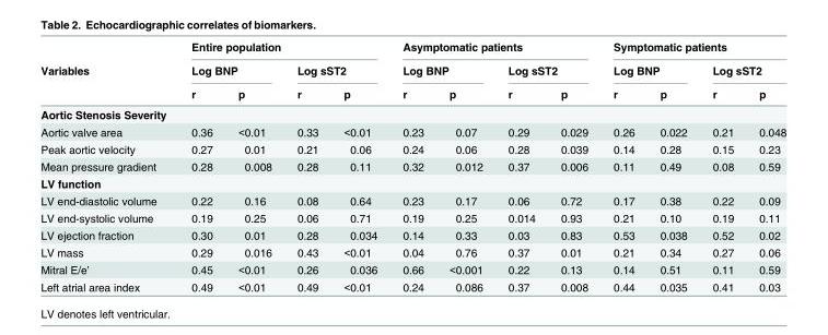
<table><thead><tr><td rowspan="3">Variables</td><td colspan="4">Entire population</td><td colspan="4">Asymptomatic patients</td><td colspan="4">Symptomatic patients</td></tr><tr><td colspan="2">Log BNP</td><td colspan="2">Log sST2</td><td colspan="2">Log BNP</td><td colspan="2">Log sST2</td><td colspan="2">Log BNP</td><td colspan="2">Log sST2</td></tr><tr><td>r</td><td>p</td><td>r</td><td>p</td><td>r</td><td>p</td><td>r</td><td>p</td><td>r</td><td>p</td><td>r</td><td>p</td></tr></thead><tbody><tr><td colspan="13">Aortic Stenosis Severity</td></tr><tr><td>Aortic valve area</td><td>0.36</td><td>&lt;0.01</td><td>0.33</td><td>&lt;0.01</td><td>0.23</td><td>0.07</td><td>0.29</td><td>0.029</td><td>0.26</td><td>0.022</td><td>0.21</td><td>0.048</td></tr><tr><td>Peak aortic velocity</td><td>0.27</td><td>0.01</td><td>0.21</td><td>0.06</td><td>0.24</td><td>0.06</td><td>0.28</td><td>0.039</td><td>0.14</td><td>0.28</td><td>0.15</td><td>0.23</td></tr><tr><td>Mean pressure gradient</td><td>0.28</td><td>0.008</td><td>0.28</td><td>0.11</td><td>0.32</td><td>0.012</td><td>0.37</td><td>0.006</td><td>0.11</td><td>0.49</td><td>0.08</td><td>0.59</td></tr><tr><td colspan="13">LV function</td></tr><tr><td>LV end-diastolic volume</td><td>0.22</td><td>0.16</td><td>0.08</td><td>0.64</td><td>0.23</td><td>0.17</td><td>0.06</td><td>0.72</td><td>0.17</td><td>0.38</td><td>0.22</td><td>0.09</td></tr><tr><td>LV end-systolic volume</td><td>0.19</td><td>0.25</td><td>0.06</td><td>0.71</td><td>0.19</td><td>0.25</td><td>0.014</td><td>0.93</td><td>0.21</td><td>0.10</td><td>0.19</td><td>0.11</td></tr><tr><td>LV ejection fraction</td><td>0.30</td><td>0.01</td><td>0.28</td><td>0.034</td><td>0.14</td><td>0.33</td><td>0.03</td><td>0.83</td><td>0.53</td><td>0.038</td><td>0.52</td><td>0.02</td></tr><tr><td>LV mass</td><td>0.29</td><td>0.016</td><td>0.43</td><td>&lt;0.01</td><td>0.04</td><td>0.76</td><td>0.37</td><td>0.01</td><td>0.21</td><td>0.34</td><td>0.27</td><td>0.06</td></tr><tr><td>Mitral E/e’</td><td>0.45</td><td>&lt;0.01</td><td>0.26</td><td>0.036</td><td>0.66</td><td>&lt;0.001</td><td>0.22</td><td>0.13</td><td>0.14</td><td>0.51</td><td>0.11</td><td>0.59</td></tr><tr><td>Left atrial area index</td><td>0.49</td><td>&lt;0.01</td><td>0.49</td><td>&lt;0.01</td><td>0.24</td><td>0.086</td><td>0.37</td><td>0.008</td><td>0.44</td><td>0.035</td><td>0.41</td><td>0.03</td></tr></tbody></table>